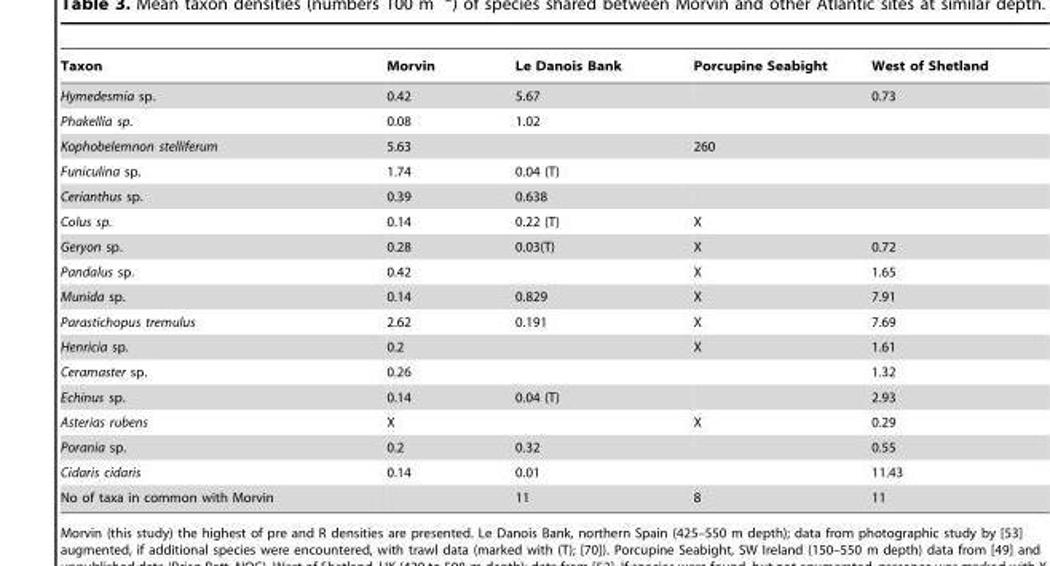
<table><thead><tr><td>Taxon</td><td>Morvin</td><td>Le Danois Bank</td><td>Porcupine Seabight</td><td>West of Shetland</td></tr></thead><tbody><tr><td>Hymedesmia sp.</td><td>0.42</td><td>5.67</td><td></td><td>0.73</td></tr><tr><td>Phakellia sp.</td><td>0.08</td><td>1.02</td><td></td><td></td></tr><tr><td>Kophobelemnon stelliferum</td><td>5.63</td><td></td><td>260</td><td></td></tr><tr><td>Funiculina sp.</td><td>1.74</td><td>0.04 (T)</td><td></td><td></td></tr><tr><td>Cerianthus sp.</td><td>0.39</td><td>0.638</td><td></td><td></td></tr><tr><td>Colus sp.</td><td>0.14</td><td>0.22 (T)</td><td>X</td><td></td></tr><tr><td>Geryon sp.</td><td>0.28</td><td>0.03(T)</td><td>X</td><td>0.72</td></tr><tr><td>Pandalus sp.</td><td>0.42</td><td></td><td>X</td><td>1.65</td></tr><tr><td>Munida sp.</td><td>0.14</td><td>0.829</td><td>X</td><td>7.91</td></tr><tr><td>Parastichopus tremulus</td><td>2.62</td><td>0.191</td><td>X</td><td>7.69</td></tr><tr><td>Henricia sp.</td><td>0.2</td><td></td><td>X</td><td>1.61</td></tr><tr><td>Ceramaster sp.</td><td>0.26</td><td></td><td></td><td>1.32</td></tr><tr><td>Echinus sp.</td><td>0.14</td><td>0.04 (T)</td><td></td><td>2.93</td></tr><tr><td>Asterias rubens</td><td>X</td><td></td><td>X</td><td>0.29</td></tr><tr><td>Porania sp.</td><td>0.2</td><td>0.32</td><td></td><td>0.55</td></tr><tr><td>Cidaris cidaris</td><td>0.14</td><td>0.01</td><td></td><td>11.43</td></tr><tr><td>No of taxa in common with Morvin</td><td></td><td>11</td><td>8</td><td>11</td></tr></tbody></table>